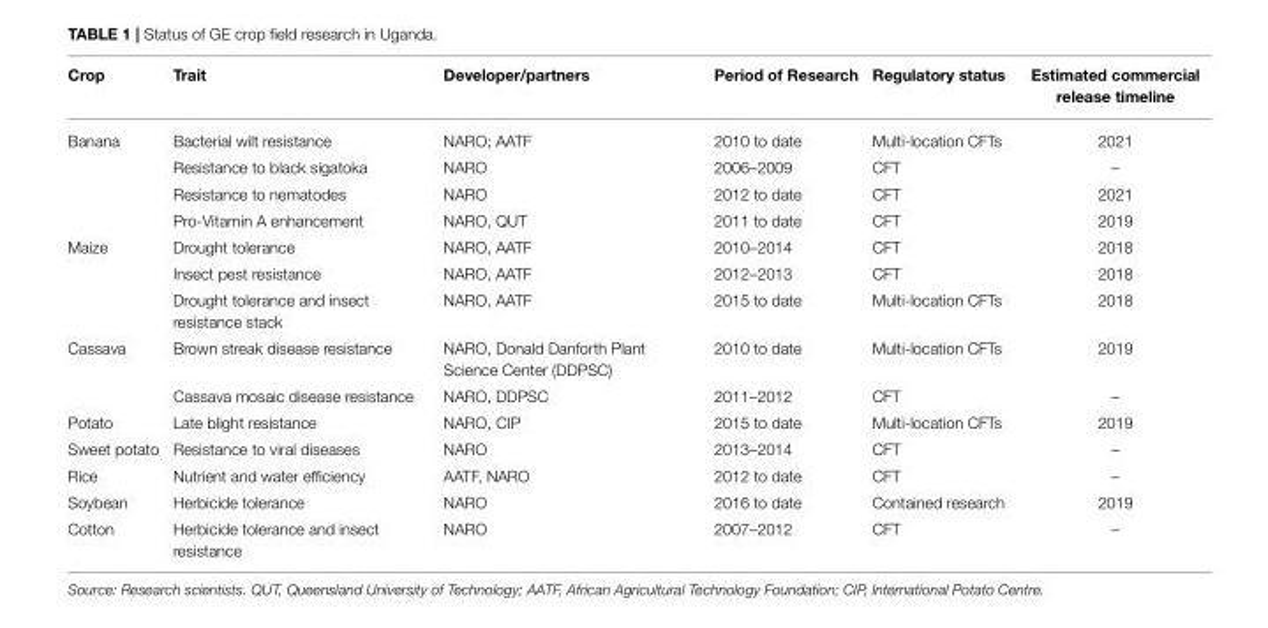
<table><thead><tr><td>Crop</td><td>Trait</td><td>Developer/partners</td><td>Period of Research</td><td>Regulatory status</td><td>Estimated commercial release timeline</td></tr></thead><tbody><tr><td rowspan="4">Banana</td><td>Bacterial wilt resistance</td><td>NARO; AATF</td><td>2010 to date</td><td>Multi-location CFTs</td><td>2021</td></tr><tr><td>Resistance to black sigatoka</td><td>NARO</td><td>2006–2009</td><td>CFT</td><td>–</td></tr><tr><td>Resistance to nematodes</td><td>NARO</td><td>2012 to date</td><td>CFT</td><td>2021</td></tr><tr><td>Pro-Vitamin A enhancement</td><td>NARO, QUT</td><td>2011 to date</td><td>CFT</td><td>2019</td></tr><tr><td rowspan="3">Maize</td><td>Drought tolerance</td><td>NARO, AATF</td><td>2010–2014</td><td>CFT</td><td>2018</td></tr><tr><td>Insect pest resistance</td><td>NARO, AATF</td><td>2012–2013</td><td>CFT</td><td>2018</td></tr><tr><td>Drought tolerance and insect resistance stack</td><td>NARO, AATF</td><td>2015 to date</td><td>Multi-location CFTs</td><td>2018</td></tr><tr><td rowspan="2">Cassava</td><td>Brown streak disease resistance</td><td>NARO, Donald Danforth Plant Science Center (DDPSC)</td><td>2010 to date</td><td>Multi-location CFTs</td><td>2019</td></tr><tr><td>Cassava mosaic disease resistance</td><td>NARO, DDPSC</td><td>2011–2012</td><td>CFT</td><td>–</td></tr><tr><td>Potato</td><td>Late blight resistance</td><td>NARO, CIP</td><td>2015 to date</td><td>Multi-location CFTs</td><td>2019</td></tr><tr><td>Sweet potato</td><td>Resistance to viral diseases</td><td>NARO</td><td>2013–2014</td><td>CFT</td><td>–</td></tr><tr><td>Rice</td><td>Nutrient and water efficiency</td><td>AATF, NARO</td><td>2012 to date</td><td>CFT</td><td>–</td></tr><tr><td>Soybean</td><td>Herbicide tolerance</td><td>NARO</td><td>2016 to date</td><td>Contained research</td><td>2019</td></tr><tr><td>Cotton</td><td>Herbicide tolerance and insect resistance</td><td>NARO</td><td>2007–2012</td><td>CFT</td><td>–</td></tr></tbody></table>